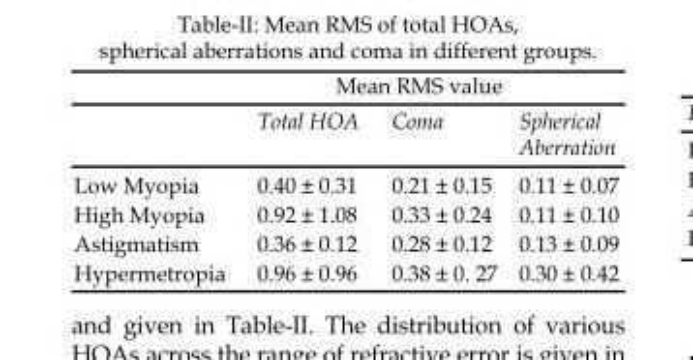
<table><thead><tr><td rowspan="2"></td><td colspan="3">Mean RMS value</td></tr><tr><td>Total HOA</td><td>Coma</td><td>Spherical Aberration</td></tr></thead><tbody><tr><td>Low Myopia</td><td>0.40 ± 0.31</td><td>0.21 ± 0.15</td><td>0.11 ± 0.07</td></tr><tr><td>High Myopia</td><td>0.92 ± 1.08</td><td>0.33 ± 0.24</td><td>0.11 ± 0.10</td></tr><tr><td>Astigmatism</td><td>0.36 ± 0.12</td><td>0.28 ± 0.12</td><td>0.13 ± 0.09</td></tr><tr><td>Hypermetropia</td><td>0.96 ± 0.96</td><td>0.38 ± 0. 27</td><td>0.30 ± 0.42</td></tr></tbody></table>